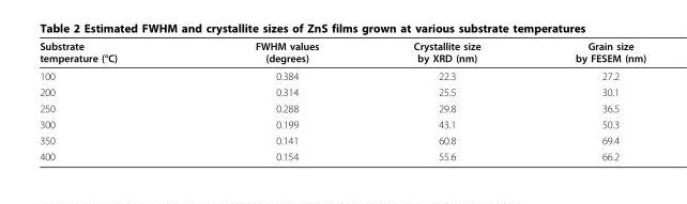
<table><thead><tr><td>Substrate temperature (°C)</td><td>FWHM values (degrees)</td><td>Crystallite size by XRD (nm)</td><td>Grain size by FESEM (nm)</td></tr></thead><tbody><tr><td>100</td><td>0.384</td><td>22.3</td><td>27.2</td></tr><tr><td>200</td><td>0.314</td><td>25.5</td><td>30.1</td></tr><tr><td>250</td><td>0.288</td><td>29.8</td><td>36.5</td></tr><tr><td>300</td><td>0.199</td><td>43.1</td><td>50.3</td></tr><tr><td>350</td><td>0.141</td><td>60.8</td><td>69.4</td></tr><tr><td>400</td><td>0.154</td><td>55.6</td><td>66.2</td></tr></tbody></table>